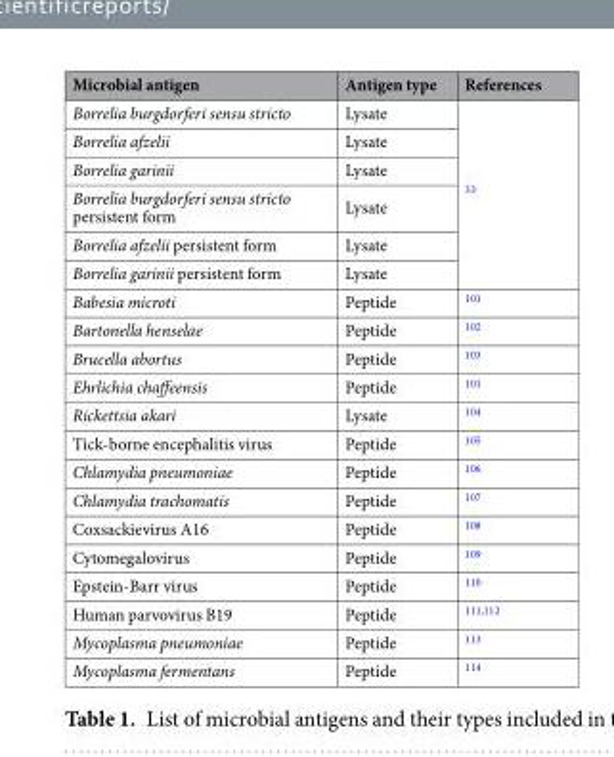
<table><thead><tr><td>Microbial antigen</td><td>Antigen type</td><td>References</td></tr></thead><tbody><tr><td>Borrelia burgdorferi sensu stricto</td><td>Lysate</td><td rowspan="6">33</td></tr><tr><td>Borrelia afzelii</td><td>Lysate</td></tr><tr><td>Borrelia garinii</td><td>Lysate</td></tr><tr><td>Borrelia burgdorferi sensu stricto persistent form</td><td>Lysate</td></tr><tr><td>Borrelia afzelii persistent form</td><td>Lysate</td></tr><tr><td>Borrelia garinii persistent form</td><td>Lysate</td></tr><tr><td>Babesia microti</td><td>Peptide</td><td>101</td></tr><tr><td>Bartonella henselae</td><td>Peptide</td><td>102</td></tr><tr><td>Brucella abortus</td><td>Peptide</td><td>103</td></tr><tr><td>Ehrlichia chaffeensis</td><td>Peptide</td><td>101</td></tr><tr><td>Rickettsia akari</td><td>Lysate</td><td>104</td></tr><tr><td>Tick-borne encephalitis virus</td><td>Peptide</td><td>105</td></tr><tr><td>Chlamydia pneumoniae</td><td>Peptide</td><td>106</td></tr><tr><td>Chlamydia trachomatis</td><td>Peptide</td><td>107</td></tr><tr><td>Coxsackievirus A16</td><td>Peptide</td><td>108</td></tr><tr><td>Cytomegalovirus</td><td>Peptide</td><td>109</td></tr><tr><td>Epstein-Barr virus</td><td>Peptide</td><td>110</td></tr><tr><td>Human parvovirus B19</td><td>Peptide</td><td>111,112</td></tr><tr><td>Mycoplasma pneumoniae</td><td>Peptide</td><td>113</td></tr><tr><td>Mycoplasma fermentans</td><td>Peptide</td><td>114</td></tr></tbody></table>